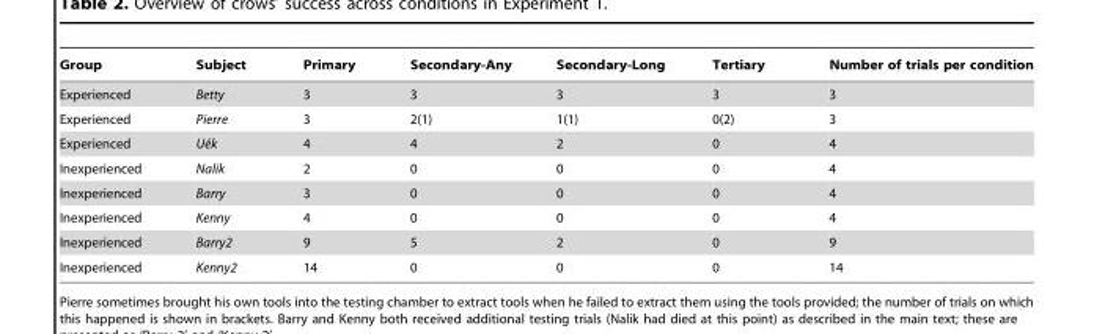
<table><thead><tr><td>Group</td><td>Subject</td><td>Primary</td><td>Secondary-Any</td><td>Secondary-Long</td><td>Tertiary</td><td>Number of trials per condition</td></tr></thead><tbody><tr><td>Experienced</td><td>Betty</td><td>3</td><td>3</td><td>3</td><td>3</td><td>3</td></tr><tr><td>Experienced</td><td>Pierre</td><td>3</td><td>2(1)</td><td>1(1)</td><td>0(2)</td><td>3</td></tr><tr><td>Experienced</td><td>Ue´k</td><td>4</td><td>4</td><td>2</td><td>0</td><td>4</td></tr><tr><td>Inexperienced</td><td>Nalik</td><td>2</td><td>0</td><td>0</td><td>0</td><td>4</td></tr><tr><td>Inexperienced</td><td>Barry</td><td>3</td><td>0</td><td>0</td><td>0</td><td>4</td></tr><tr><td>Inexperienced</td><td>Kenny</td><td>4</td><td>0</td><td>0</td><td>0</td><td>4</td></tr><tr><td>Inexperienced</td><td>Barry2</td><td>9</td><td>5</td><td>2</td><td>0</td><td>9</td></tr><tr><td>Inexperienced</td><td>Kenny2</td><td>14</td><td>0</td><td>0</td><td>0</td><td>14</td></tr></tbody></table>